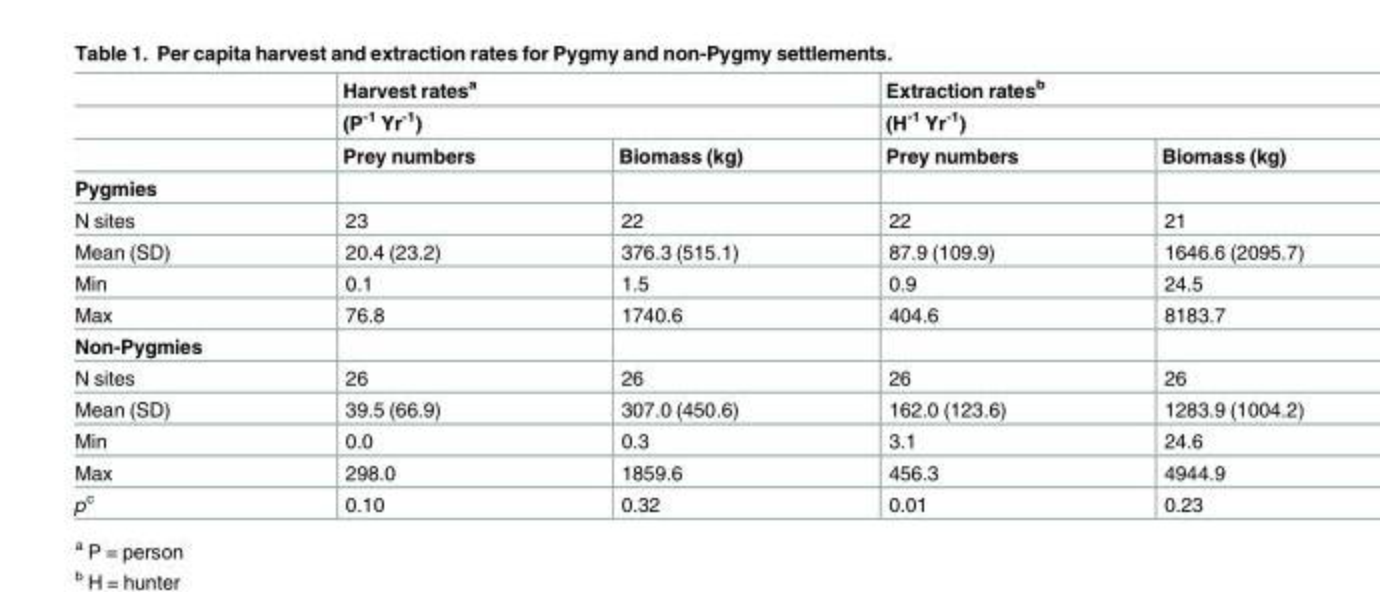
<table><thead><tr><td rowspan="3"></td><td rowspan="2" colspan="2">Harvest rates<sup>a</sup> (P<sup>-1</sup> Yr<sup>-1</sup>)</td><td rowspan="2" colspan="2">Extraction rates<sup>b</sup> (H<sup>-1</sup> Yr<sup>-1</sup>)</td></tr><tr></tr><tr><td>Prey numbers</td><td>Biomass (kg)</td><td>Prey numbers</td><td>Biomass (kg)</td></tr></thead><tbody><tr><td colspan="5">Pygmies</td></tr><tr><td>N sites</td><td>23</td><td>22</td><td>22</td><td>21</td></tr><tr><td>Mean (SD)</td><td>20.4 (23.2)</td><td>376.3 (515.1)</td><td>87.9 (109.9)</td><td>1646.6 (2095.7)</td></tr><tr><td>Min</td><td>0.1</td><td>1.5</td><td>0.9</td><td>24.5</td></tr><tr><td>Max</td><td>76.8</td><td>1740.6</td><td>404.6</td><td>8183.7</td></tr><tr><td colspan="5">Non-Pygmies</td></tr><tr><td>N sites</td><td>26</td><td>26</td><td>26</td><td>26</td></tr><tr><td>Mean (SD)</td><td>39.5 (66.9)</td><td>307.0 (450.6)</td><td>162.0 (123.6)</td><td>1283.9 (1004.2)</td></tr><tr><td>Min</td><td>0.0</td><td>0.3</td><td>3.1</td><td>24.6</td></tr><tr><td>Max</td><td>298.0</td><td>1859.6</td><td>456.3</td><td>4944.9</td></tr><tr><td>p<sup>c</sup></td><td>0.10</td><td>0.32</td><td>0.01</td><td>0.23</td></tr></tbody></table>